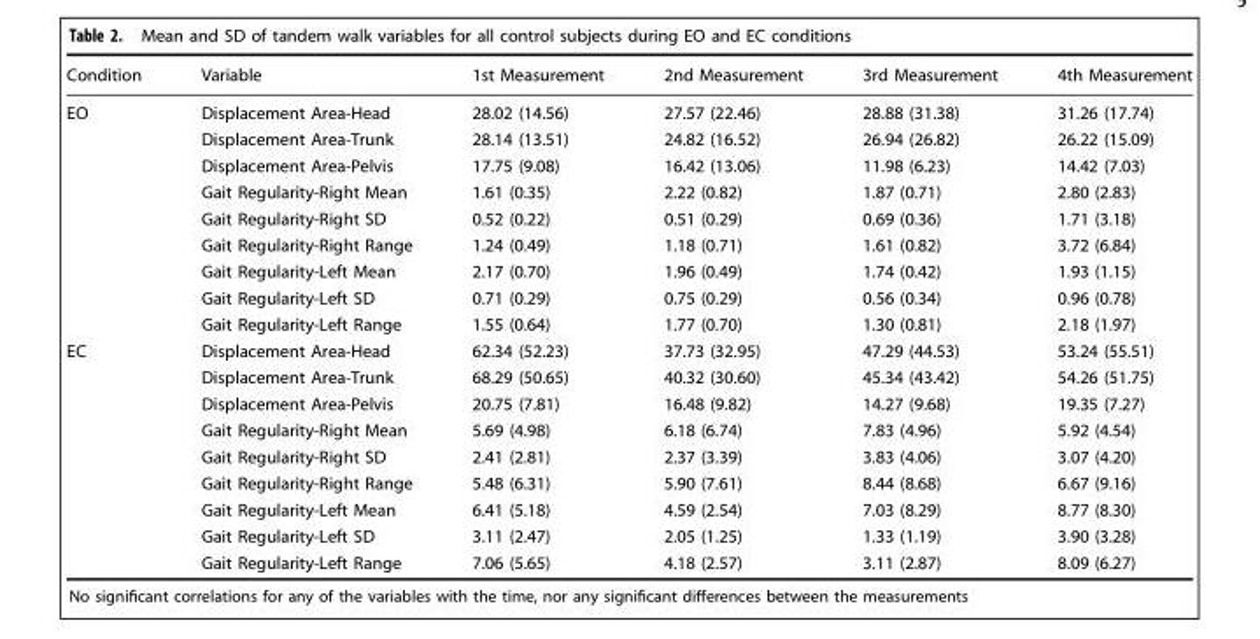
<table><thead><tr><td>Condition</td><td>Variable</td><td>1st Measurement</td><td>2nd Measurement</td><td>3rd Measurement</td><td>4th Measurement</td></tr></thead><tbody><tr><td rowspan="9">EO</td><td>Displacement Area-Head</td><td>28.02 (14.56)</td><td>27.57 (22.46)</td><td>28.88 (31.38)</td><td>31.26 (17.74)</td></tr><tr><td>Displacement Area-Trunk</td><td>28.14 (13.51)</td><td>24.82 (16.52)</td><td>26.94 (26.82)</td><td>26.22 (15.09)</td></tr><tr><td>Displacement Area-Pelvis</td><td>17.75 (9.08)</td><td>16.42 (13.06)</td><td>11.98 (6.23)</td><td>14.42 (7.03)</td></tr><tr><td>Gait Regularity-Right Mean</td><td>1.61 (0.35)</td><td>2.22 (0.82)</td><td>1.87 (0.71)</td><td>2.80 (2.83)</td></tr><tr><td>Gait Regularity-Right SD</td><td>0.52 (0.22)</td><td>0.51 (0.29)</td><td>0.69 (0.36)</td><td>1.71 (3.18)</td></tr><tr><td>Gait Regularity-Right Range</td><td>1.24 (0.49)</td><td>1.18 (0.71)</td><td>1.61 (0.82)</td><td>3.72 (6.84)</td></tr><tr><td>Gait Regularity-Left Mean</td><td>2.17 (0.70)</td><td>1.96 (0.49)</td><td>1.74 (0.42)</td><td>1.93 (1.15)</td></tr><tr><td>Gait Regularity-Left SD</td><td>0.71 (0.29)</td><td>0.75 (0.29)</td><td>0.56 (0.34)</td><td>0.96 (0.78)</td></tr><tr><td>Gait Regularity-Left Range</td><td>1.55 (0.64)</td><td>1.77 (0.70)</td><td>1.30 (0.81)</td><td>2.18 (1.97)</td></tr><tr><td rowspan="9">EC</td><td>Displacement Area-Head</td><td>62.34 (52.23)</td><td>37.73 (32.95)</td><td>47.29 (44.53)</td><td>53.24 (55.51)</td></tr><tr><td>Displacement Area-Trunk</td><td>68.29 (50.65)</td><td>40.32 (30.60)</td><td>45.34 (43.42)</td><td>54.26 (51.75)</td></tr><tr><td>Displacement Area-Pelvis</td><td>20.75 (7.81)</td><td>16.48 (9.82)</td><td>14.27 (9.68)</td><td>19.35 (7.27)</td></tr><tr><td>Gait Regularity-Right Mean</td><td>5.69 (4.98)</td><td>6.18 (6.74)</td><td>7.83 (4.96)</td><td>5.92 (4.54)</td></tr><tr><td>Gait Regularity-Right SD</td><td>2.41 (2.81)</td><td>2.37 (3.39)</td><td>3.83 (4.06)</td><td>3.07 (4.20)</td></tr><tr><td>Gait Regularity-Right Range</td><td>5.48 (6.31)</td><td>5.90 (7.61)</td><td>8.44 (8.68)</td><td>6.67 (9.16)</td></tr><tr><td>Gait Regularity-Left Mean</td><td>6.41 (5.18)</td><td>4.59 (2.54)</td><td>7.03 (8.29)</td><td>8.77 (8.30)</td></tr><tr><td>Gait Regularity-Left SD</td><td>3.11 (2.47)</td><td>2.05 (1.25)</td><td>1.33 (1.19)</td><td>3.90 (3.28)</td></tr><tr><td>Gait Regularity-Left Range</td><td>7.06 (5.65)</td><td>4.18 (2.57)</td><td>3.11 (2.87)</td><td>8.09 (6.27)</td></tr></tbody></table>